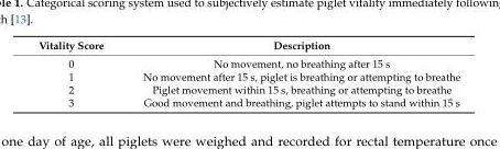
<table><thead><tr><td>Vitality Score</td><td>Description</td></tr></thead><tbody><tr><td>0</td><td>No movement, no breathing after 15 s</td></tr><tr><td>1</td><td>No movement after 15 s, piglet is breathing or attempting to breathe</td></tr><tr><td>2</td><td>Piglet movement within 15 s, breathing or attempting to breathe</td></tr><tr><td>3</td><td>Good movement and breathing, piglet attempts to stand within 15 s</td></tr></tbody></table>